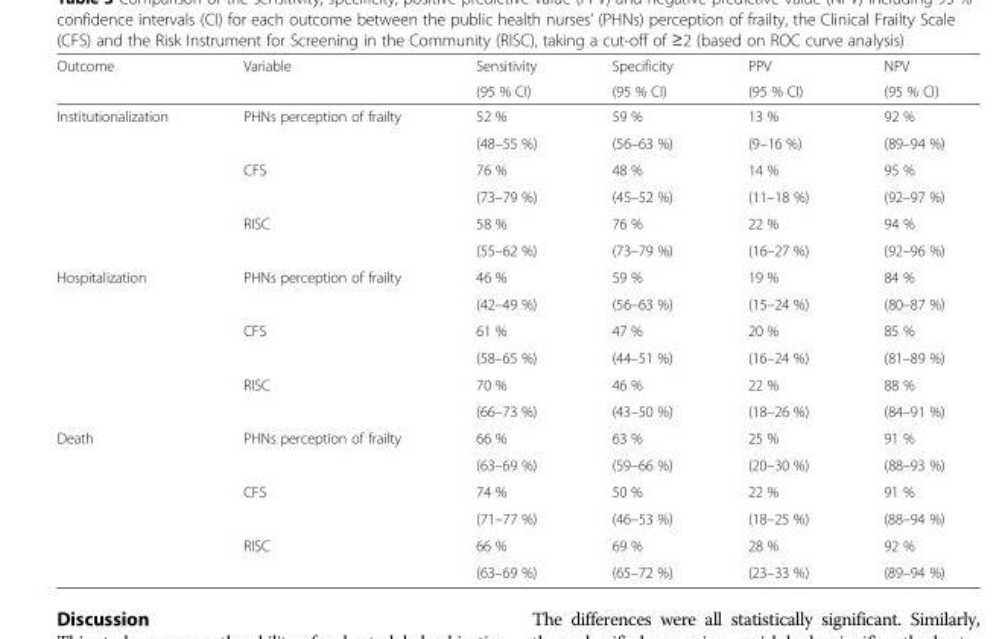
<table><thead><tr><td rowspan="2">Outcome</td><td rowspan="2">Variable</td><td rowspan="2">Sensitivity (95 % CI)</td><td rowspan="2">Specificity (95 % CI)</td><td rowspan="2">PPV (95 % CI)</td><td rowspan="2">NPV (95 % CI)</td></tr><tr></tr></thead><tbody><tr><td rowspan="6">Institutionalization</td><td rowspan="2">PHNs perception of frailty</td><td>52 %</td><td>59 %</td><td>13 %</td><td>92 %</td></tr><tr><td>(48–55 %)</td><td>(56–63 %)</td><td>(9–16 %)</td><td>(89–94 %)</td></tr><tr><td rowspan="2">CFS</td><td>76 %</td><td>48 %</td><td>14 %</td><td>95 %</td></tr><tr><td>(73–79 %)</td><td>(45–52 %)</td><td>(11–18 %)</td><td>(92–97 %)</td></tr><tr><td rowspan="2">RISC</td><td>58 %</td><td>76 %</td><td>22 %</td><td>94 %</td></tr><tr><td>(55–62 %)</td><td>(73–79 %)</td><td>(16–27 %)</td><td>(92–96 %)</td></tr><tr><td rowspan="6">Hospitalization</td><td rowspan="2">PHNs perception of frailty</td><td>46 %</td><td>59 %</td><td>19 %</td><td>84 %</td></tr><tr><td>(42–49 %)</td><td>(56–63 %)</td><td>(15–24 %)</td><td>(80–87 %)</td></tr><tr><td rowspan="2">CFS</td><td>61 %</td><td>47 %</td><td>20 %</td><td>85 %</td></tr><tr><td>(58–65 %)</td><td>(44–51 %)</td><td>(16–24 %)</td><td>(81–89 %)</td></tr><tr><td rowspan="2">RISC</td><td>70 %</td><td>46 %</td><td>22 %</td><td>88 %</td></tr><tr><td>(66–73 %)</td><td>(43–50 %)</td><td>(18–26 %)</td><td>(84–91 %)</td></tr><tr><td rowspan="6">Death</td><td rowspan="2">PHNs perception of frailty</td><td>66 %</td><td>63 %</td><td>25 %</td><td>91 %</td></tr><tr><td>(63–69 %)</td><td>(59–66 %)</td><td>(20–30 %)</td><td>(88–93 %)</td></tr><tr><td rowspan="2">CFS</td><td>74 %</td><td>50 %</td><td>22 %</td><td>91 %</td></tr><tr><td>(71–77 %)</td><td>(46–53 %)</td><td>(18–25 %)</td><td>(88–94 %)</td></tr><tr><td rowspan="2">RISC</td><td>66 %</td><td>69 %</td><td>28 %</td><td>92 %</td></tr><tr><td>(63–69 %)</td><td>(65–72 %)</td><td>(23–33 %)</td><td>(89–94 %)</td></tr></tbody></table>